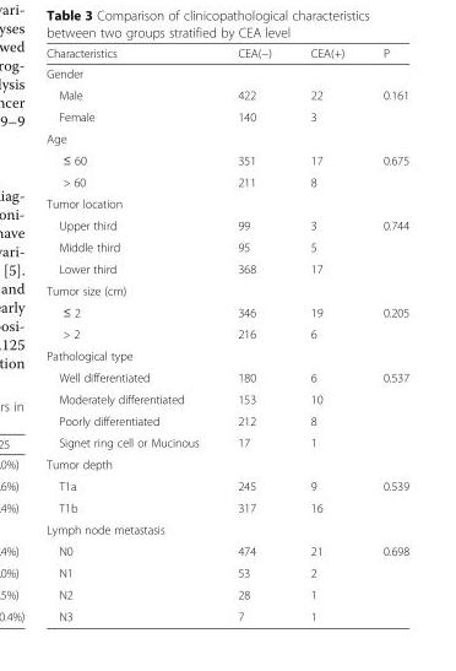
<table><thead><tr><td>Characteristics</td><td>CEA(−)</td><td>CEA(+)</td><td>P</td></tr></thead><tbody><tr><td colspan="4">Gender</td></tr><tr><td>Male</td><td>422</td><td>22</td><td>0.161</td></tr><tr><td>Female</td><td>140</td><td>3</td><td></td></tr><tr><td colspan="4">Age</td></tr><tr><td>≤ 60</td><td>351</td><td>17</td><td>0.675</td></tr><tr><td>&gt; 60</td><td>211</td><td>8</td><td></td></tr><tr><td colspan="4">Tumor location</td></tr><tr><td>Upper third</td><td>99</td><td>3</td><td>0.744</td></tr><tr><td>Middle third</td><td>95</td><td>5</td><td></td></tr><tr><td>Lower third</td><td>368</td><td>17</td><td></td></tr><tr><td colspan="4">Tumor size (cm)</td></tr><tr><td>≤ 2</td><td>346</td><td>19</td><td>0.205</td></tr><tr><td>&gt; 2</td><td>216</td><td>6</td><td></td></tr><tr><td colspan="4">Pathological type</td></tr><tr><td>Well differentiated</td><td>180</td><td>6</td><td>0.537</td></tr><tr><td>Moderately differentiated</td><td>153</td><td>10</td><td></td></tr><tr><td>Poorly differentiated</td><td>212</td><td>8</td><td></td></tr><tr><td>Signet ring cell or Mucinous</td><td>17</td><td>1</td><td></td></tr><tr><td colspan="4">Tumor depth</td></tr><tr><td>T1a</td><td>245</td><td>9</td><td>0.539</td></tr><tr><td>T1b</td><td>317</td><td>16</td><td></td></tr><tr><td colspan="4">Lymph node metastasis</td></tr><tr><td>N0</td><td>474</td><td>21</td><td>0.698</td></tr><tr><td>N1</td><td>53</td><td>2</td><td></td></tr><tr><td>N2</td><td>28</td><td>1</td><td></td></tr><tr><td>N3</td><td>7</td><td>1</td><td></td></tr></tbody></table>